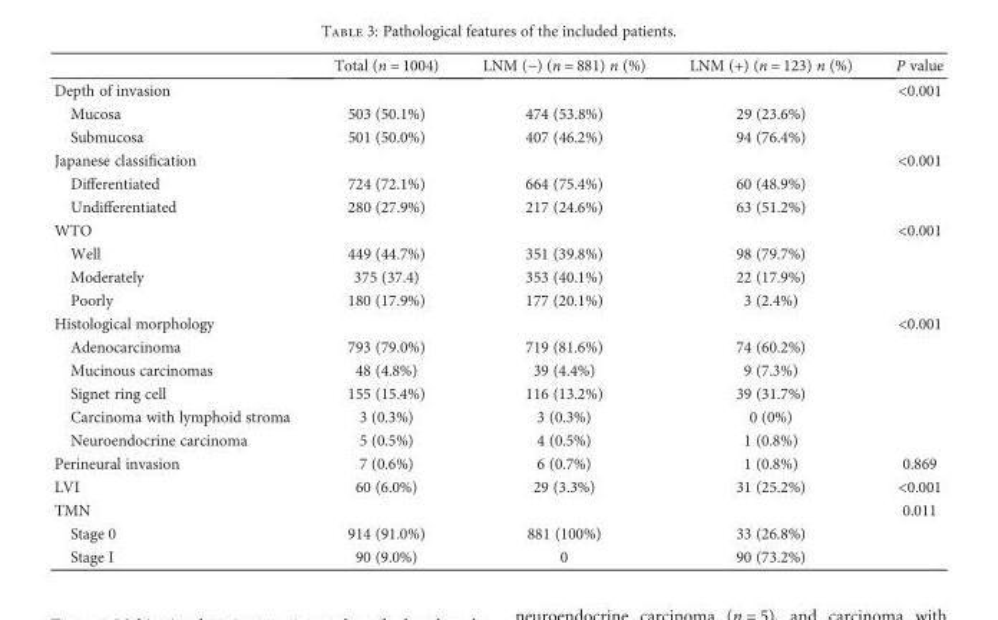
<table><thead><tr><td></td><td>Total (n = 1004)</td><td>LNM (−) (n = 881) n (%)</td><td>LNM (+) (n = 123) n (%)</td><td>P value</td></tr></thead><tbody><tr><td>Depth of invasion</td><td></td><td></td><td></td><td>&lt;0.001</td></tr><tr><td>Mucosa</td><td>503 (50.1%)</td><td>474 (53.8%)</td><td>29 (23.6%)</td><td></td></tr><tr><td>Submucosa</td><td>501 (50.0%)</td><td>407 (46.2%)</td><td>94 (76.4%)</td><td></td></tr><tr><td>Japanese classification</td><td></td><td></td><td></td><td>&lt;0.001</td></tr><tr><td>Differentiated</td><td>724 (72.1%)</td><td>664 (75.4%)</td><td>60 (48.9%)</td><td></td></tr><tr><td>Undifferentiated</td><td>280 (27.9%)</td><td>217 (24.6%)</td><td>63 (51.2%)</td><td></td></tr><tr><td>WTO</td><td></td><td></td><td></td><td>&lt;0.001</td></tr><tr><td>Well</td><td>449 (44.7%)</td><td>351 (39.8%)</td><td>98 (79.7%)</td><td></td></tr><tr><td>Moderately</td><td>375 (37.4)</td><td>353 (40.1%)</td><td>22 (17.9%)</td><td></td></tr><tr><td>Poorly</td><td>180 (17.9%)</td><td>177 (20.1%)</td><td>3 (2.4%)</td><td></td></tr><tr><td>Histological morphology</td><td></td><td></td><td></td><td>&lt;0.001</td></tr><tr><td>Adenocarcinoma</td><td>793 (79.0%)</td><td>719 (81.6%)</td><td>74 (60.2%)</td><td></td></tr><tr><td>Mucinous carcinomas</td><td>48 (4.8%)</td><td>39 (4.4%)</td><td>9 (7.3%)</td><td></td></tr><tr><td>Signet ring cell</td><td>155 (15.4%)</td><td>116 (13.2%)</td><td>39 (31.7%)</td><td></td></tr><tr><td>Carcinoma with lymphoid stroma</td><td>3 (0.3%)</td><td>3 (0.3%)</td><td>0 (0%)</td><td></td></tr><tr><td>Neuroendocrine carcinoma</td><td>5 (0.5%)</td><td>4 (0.5%)</td><td>1 (0.8%)</td><td></td></tr><tr><td>Perineural invasion</td><td>7 (0.6%)</td><td>6 (0.7%)</td><td>1 (0.8%)</td><td>0.869</td></tr><tr><td>LVI</td><td>60 (6.0%)</td><td>29 (3.3%)</td><td>31 (25.2%)</td><td>&lt;0.001</td></tr><tr><td>TMN</td><td></td><td></td><td></td><td>0.011</td></tr><tr><td>Stage 0</td><td>914 (91.0%)</td><td>881 (100%)</td><td>33 (26.8%)</td><td></td></tr><tr><td>Stage I</td><td>90 (9.0%)</td><td>0</td><td>90 (73.2%)</td><td></td></tr></tbody></table>